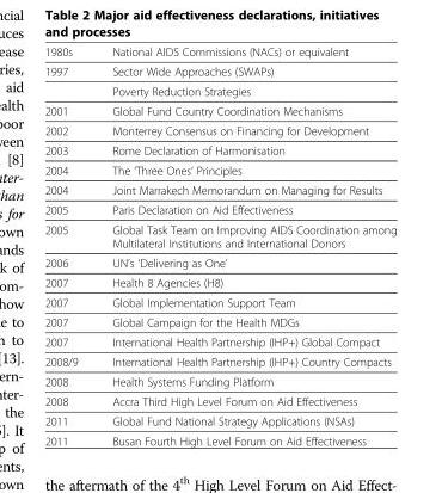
<table><tbody><tr><td>1980s</td><td>National AIDS Commissions (NACs) or equivalent</td></tr><tr><td rowspan="2">1997</td><td>Sector Wide Approaches (SWAPs)</td></tr><tr><td>Poverty Reduction Strategies</td></tr><tr><td>2001</td><td>Global Fund Country Coordination Mechanisms</td></tr><tr><td>2002</td><td>Monterrey Consensus on Financing for Development</td></tr><tr><td>2003</td><td>Rome Declaration of Harmonisation</td></tr><tr><td>2004</td><td>The ‘Three Ones’ Principles</td></tr><tr><td>2004</td><td>Joint Marrakech Memorandum on Managing for Results</td></tr><tr><td>2005</td><td>Paris Declaration on Aid Effectiveness</td></tr><tr><td>2005</td><td>Global Task Team on Improving AIDS Coordination among Multilateral Institutions and International Donors</td></tr><tr><td>2006</td><td>UN’s ‘Delivering as One’</td></tr><tr><td>2007</td><td>Health 8 Agencies (H8)</td></tr><tr><td>2007</td><td>Global Implementation Support Team</td></tr><tr><td>2007</td><td>Global Campaign for the Health MDGs</td></tr><tr><td>2007</td><td>International Health Partnership (IHP+) Global Compact</td></tr><tr><td>2008/9</td><td>International Health Partnership (IHP+) Country Compacts</td></tr><tr><td>2008</td><td>Health Systems Funding Platform</td></tr><tr><td>2008</td><td>Accra Third High Level Forum on Aid Effectiveness</td></tr><tr><td>2011</td><td>Global Fund National Strategy Applications (NSAs)</td></tr><tr><td>2011</td><td>Busan Fourth High Level Forum on Aid Effectiveness</td></tr></tbody></table>